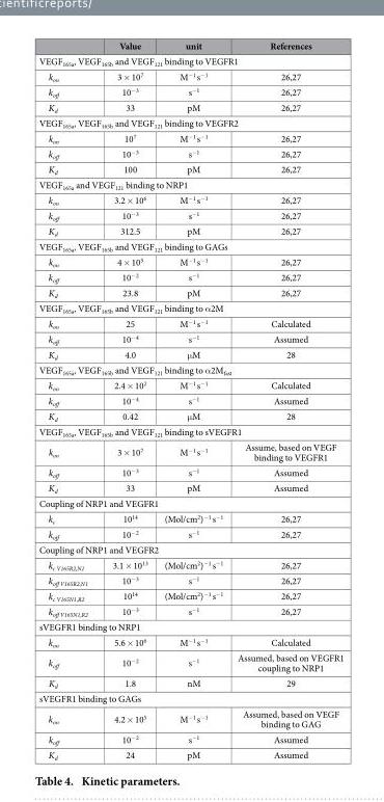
<table><thead><tr><td></td><td>Value</td><td>unit</td><td>References</td></tr></thead><tbody><tr><td colspan="4">VEGF<sub>165a</sub>, VEGF<sub>165b</sub> and VEGF<sub>121</sub> binding to VEGFR1</td></tr><tr><td>k<sub>on</sub></td><td>3 × 10<sup>7</sup></td><td>M<sup>−1</sup> s<sup>−1</sup></td><td>26,27</td></tr><tr><td>k<sub>off</sub></td><td>10<sup>−3</sup></td><td>s<sup>−1</sup></td><td>26,27</td></tr><tr><td>K<sub>d</sub></td><td>33</td><td>pM</td><td>26,27</td></tr><tr><td colspan="4">VEGF<sub>165a</sub>, VEGF<sub>165b</sub> and VEGF<sub>121</sub> binding to VEGFR2</td></tr><tr><td>k<sub>on</sub></td><td>10<sup>7</sup></td><td>M<sup>−1</sup> s<sup>−1</sup></td><td>26,27</td></tr><tr><td>k<sub>off</sub></td><td>10<sup>−3</sup></td><td>s<sup>−1</sup></td><td>26,27</td></tr><tr><td>K<sub>d</sub></td><td>100</td><td>pM</td><td>26,27</td></tr><tr><td colspan="4">VEGF<sub>165a</sub> and VEGF<sub>121</sub> binding to NRP1</td></tr><tr><td>k<sub>on</sub></td><td>3.2 × 10<sup>6</sup></td><td>M<sup>−1</sup> s<sup>−1</sup></td><td>26,27</td></tr><tr><td>k<sub>off</sub></td><td>10<sup>−3</sup></td><td>s<sup>−1</sup></td><td>26,27</td></tr><tr><td>K<sub>d</sub></td><td>312.5</td><td>pM</td><td>26,27</td></tr><tr><td colspan="4">VEGF<sub>165a</sub>, VEGF<sub>165b</sub> and VEGF<sub>121</sub> binding to GAGs</td></tr><tr><td>k<sub>on</sub></td><td>4 × 10<sup>5</sup></td><td>M<sup>−1</sup> s<sup>−1</sup></td><td>26,27</td></tr><tr><td>k<sub>off</sub></td><td>10<sup>−2</sup></td><td>s<sup>−1</sup></td><td>26,27</td></tr><tr><td>K<sub>d</sub></td><td>23.8</td><td>pM</td><td>26,27</td></tr><tr><td colspan="4">VEGF<sub>165a</sub>, VEGF<sub>165b</sub> and VEGF<sub>121</sub> binding to α 2M</td></tr><tr><td>k<sub>on</sub></td><td>25</td><td>M<sup>−1</sup> s<sup>−1</sup></td><td>Calculated</td></tr><tr><td>k<sub>off</sub></td><td>10<sup>−4</sup></td><td>s<sup>−1</sup></td><td>Assumed</td></tr><tr><td>K<sub>d</sub></td><td>4.0</td><td>μ M</td><td>28</td></tr><tr><td colspan="4">VEGF<sub>165a</sub>, VEGF<sub>165b</sub> and VEGF<sub>121</sub> binding to α 2M<sub>fast</sub></td></tr><tr><td>k<sub>on</sub></td><td>2.4 × 10<sup>2</sup></td><td>M<sup>−1</sup> s<sup>−1</sup></td><td>Calculated</td></tr><tr><td>k<sub>off</sub></td><td>10<sup>−4</sup></td><td>s<sup>−1</sup></td><td>Assumed</td></tr><tr><td>K<sub>d</sub></td><td>0.42</td><td>μ M</td><td>28</td></tr><tr><td colspan="4">VEGF<sub>165a</sub>, VEGF<sub>165b</sub> and VEGF<sub>121</sub> binding to sVEGFR1</td></tr><tr><td>k<sub>on</sub></td><td>3 × 10<sup>7</sup></td><td>M<sup>−1</sup> s<sup>−1</sup></td><td>Assume, based on VEGF binding to VEGFR1</td></tr><tr><td>k<sub>off</sub></td><td>10<sup>−3</sup></td><td>s<sup>−1</sup></td><td>Assumed</td></tr><tr><td>K<sub>d</sub></td><td>33</td><td>pM</td><td>Assumed</td></tr><tr><td colspan="4">Coupling of NRP1 and VEGFR1</td></tr><tr><td>k<sub>c</sub></td><td>10<sup>14</sup></td><td>(Mol/cm<sup>2</sup>)<sup>−1</sup> s<sup>−1</sup></td><td>26,27</td></tr><tr><td>k<sub>off</sub></td><td>10<sup>−2</sup></td><td>s<sup>−1</sup></td><td>26,27</td></tr><tr><td colspan="4">Coupling of NRP1 and VEGFR2</td></tr><tr><td>k<sub>c V165R2,N1</sub></td><td>3.1 × 10<sup>13</sup></td><td>(Mol/cm<sup>2</sup>)<sup>−1</sup> s<sup>−1</sup></td><td>26,27</td></tr><tr><td>k<sub>off V165R2,N1</sub></td><td>10<sup>−3</sup></td><td>s<sup>−1</sup></td><td>26,27</td></tr><tr><td>k<sub>c V165N1,R2</sub></td><td>10<sup>14</sup></td><td>(Mol/cm<sup>2</sup>)<sup>−1</sup> s<sup>−1</sup></td><td>26,27</td></tr><tr><td>k<sub>off V165N1,R2</sub></td><td>10<sup>−3</sup></td><td>s<sup>−1</sup></td><td>26,27</td></tr><tr><td colspan="4">sVEGFR1 binding to NRP1</td></tr><tr><td>k<sub>on</sub></td><td>5.6 × 10<sup>6</sup></td><td>M<sup>−1</sup> s<sup>−1</sup></td><td>Calculated</td></tr><tr><td>k<sub>off</sub></td><td>10<sup>−2</sup></td><td>s<sup>−1</sup></td><td>Assumed, based on VEGFR1 coupling to NRP1</td></tr><tr><td>K<sub>d</sub></td><td>1.8</td><td>nM</td><td>29</td></tr><tr><td colspan="4">sVEGFR1 binding to GAGs</td></tr><tr><td>k<sub>on</sub></td><td>4.2 × 10<sup>5</sup></td><td>M<sup>−1</sup> s<sup>−1</sup></td><td>Assumed, based on VEGF binding to GAG</td></tr><tr><td>k<sub>off</sub></td><td>10<sup>−2</sup></td><td>s<sup>−1</sup></td><td>Assumed</td></tr><tr><td>K<sub>d</sub></td><td>24</td><td>pM</td><td>Assumed</td></tr></tbody></table>